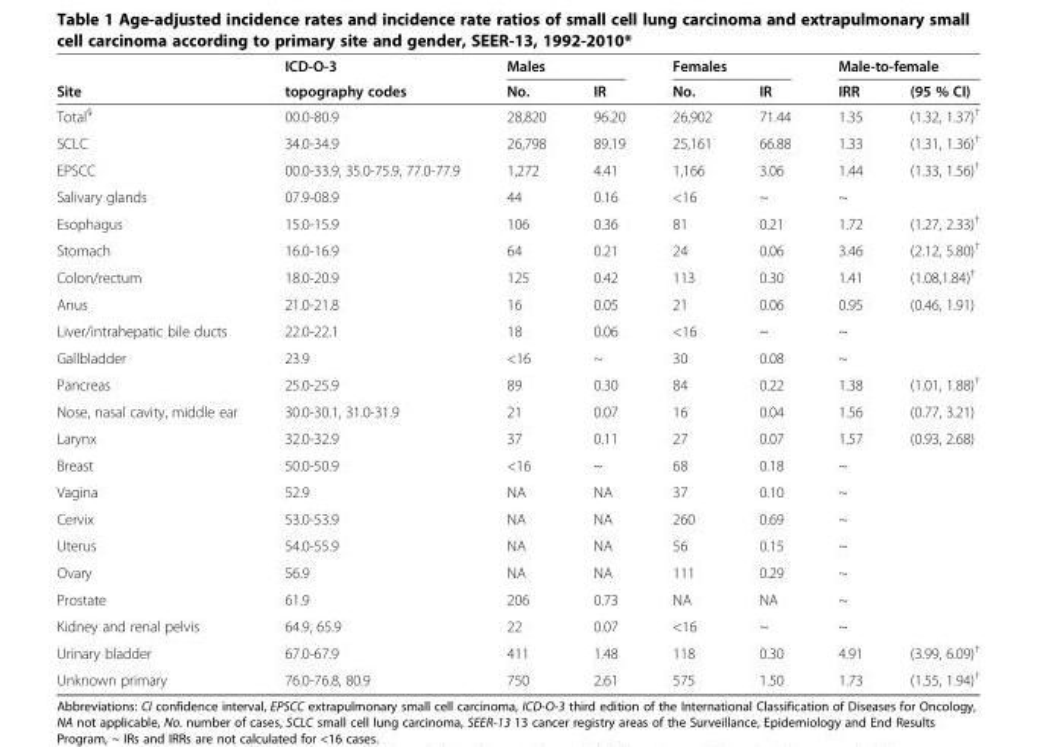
<table><thead><tr><td rowspan="2">Site</td><td rowspan="2">ICD-O-3 topography codes</td><td colspan="2">Males</td><td colspan="2">Females</td><td colspan="2">Male-to-female</td></tr><tr><td>No.</td><td>IR</td><td>No.</td><td>IR</td><td>IRR</td><td>(95 % CI)</td></tr></thead><tbody><tr><td>Total<sup>§</sup></td><td>00.0-80.9</td><td>28,820</td><td>96.20</td><td>26,902</td><td>71.44</td><td>1.35</td><td>(1.32, 1.37)<sup>†</sup></td></tr><tr><td>SCLC</td><td>34.0-34.9</td><td>26,798</td><td>89.19</td><td>25,161</td><td>66.88</td><td>1.33</td><td>(1.31, 1.36)<sup>†</sup></td></tr><tr><td>EPSCC</td><td>00.0-33.9, 35.0-75.9, 77.0-77.9</td><td>1,272</td><td>4.41</td><td>1,166</td><td>3.06</td><td>1.44</td><td>(1.33, 1.56)<sup>†</sup></td></tr><tr><td>Salivary glands</td><td>07.9-08.9</td><td>44</td><td>0.16</td><td>&lt;16</td><td>~</td><td>~</td><td></td></tr><tr><td>Esophagus</td><td>15.0-15.9</td><td>106</td><td>0.36</td><td>81</td><td>0.21</td><td>1.72</td><td>(1.27, 2.33)<sup>†</sup></td></tr><tr><td>Stomach</td><td>16.0-16.9</td><td>64</td><td>0.21</td><td>24</td><td>0.06</td><td>3.46</td><td>(2.12, 5.80)<sup>†</sup></td></tr><tr><td>Colon/rectum</td><td>18.0-20.9</td><td>125</td><td>0.42</td><td>113</td><td>0.30</td><td>1.41</td><td>(1.08,1.84)<sup>†</sup></td></tr><tr><td>Anus</td><td>21.0-21.8</td><td>16</td><td>0.05</td><td>21</td><td>0.06</td><td>0.95</td><td>(0.46, 1.91)</td></tr><tr><td>Liver/intrahepatic bile ducts</td><td>22.0-22.1</td><td>18</td><td>0.06</td><td>&lt;16</td><td>~</td><td>~</td><td></td></tr><tr><td>Gallbladder</td><td>23.9</td><td>&lt;16</td><td>~</td><td>30</td><td>0.08</td><td>~</td><td></td></tr><tr><td>Pancreas</td><td>25.0-25.9</td><td>89</td><td>0.30</td><td>84</td><td>0.22</td><td>1.38</td><td>(1.01, 1.88)<sup>†</sup></td></tr><tr><td>Nose, nasal cavity, middle ear</td><td>30.0-30.1, 31.0-31.9</td><td>21</td><td>0.07</td><td>16</td><td>0.04</td><td>1.56</td><td>(0.77, 3.21)</td></tr><tr><td>Larynx</td><td>32.0-32.9</td><td>37</td><td>0.11</td><td>27</td><td>0.07</td><td>1.57</td><td>(0.93, 2.68)</td></tr><tr><td>Breast</td><td>50.0-50.9</td><td>&lt;16</td><td>~</td><td>68</td><td>0.18</td><td>~</td><td></td></tr><tr><td>Vagina</td><td>52.9</td><td>NA</td><td>NA</td><td>37</td><td>0.10</td><td>~</td><td></td></tr><tr><td>Cervix</td><td>53.0-53.9</td><td>NA</td><td>NA</td><td>260</td><td>0.69</td><td>~</td><td></td></tr><tr><td>Uterus</td><td>54.0-55.9</td><td>NA</td><td>NA</td><td>56</td><td>0.15</td><td>~</td><td></td></tr><tr><td>Ovary</td><td>56.9</td><td>NA</td><td>NA</td><td>111</td><td>0.29</td><td>~</td><td></td></tr><tr><td>Prostate</td><td>61.9</td><td>206</td><td>0.73</td><td>NA</td><td>NA</td><td>~</td><td></td></tr><tr><td>Kidney and renal pelvis</td><td>64.9, 65.9</td><td>22</td><td>0.07</td><td>&lt;16</td><td>~</td><td>~</td><td></td></tr><tr><td>Urinary bladder</td><td>67.0-67.9</td><td>411</td><td>1.48</td><td>118</td><td>0.30</td><td>4.91</td><td>(3.99, 6.09)<sup>†</sup></td></tr><tr><td>Unknown primary</td><td>76.0-76.8, 80.9</td><td>750</td><td>2.61</td><td>575</td><td>1.50</td><td>1.73</td><td>(1.55, 1.94)<sup>†</sup></td></tr></tbody></table>